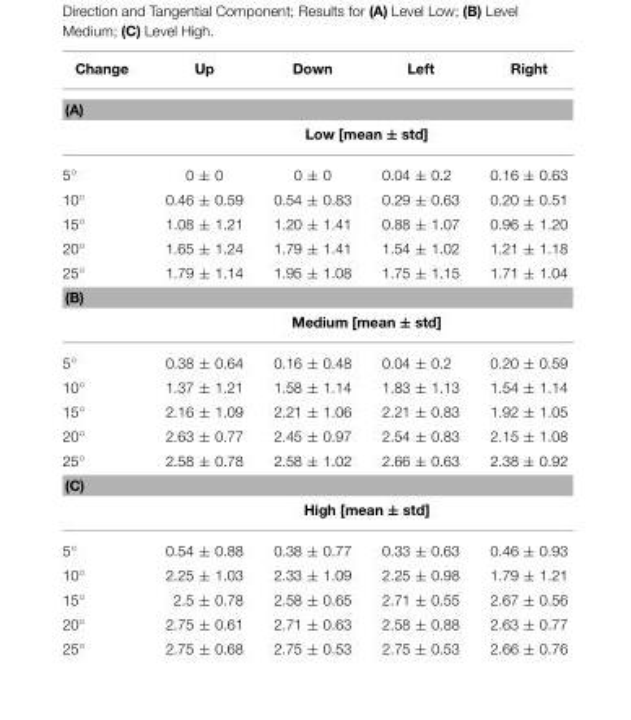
<table><thead><tr><td>Change</td><td>Up</td><td>Down</td><td>Left</td><td>Right</td></tr></thead><tbody><tr><td colspan="5">(A)</td></tr><tr><td></td><td colspan="4">Low [mean ± std]</td></tr><tr><td>5◦</td><td>0 ± 0</td><td>0 ± 0</td><td>0.04 ± 0.2</td><td>0.16 ± 0.63</td></tr><tr><td>10◦</td><td>0.46 ± 0.59</td><td>0.54 ± 0.83</td><td>0.29 ± 0.63</td><td>0.20 ± 0.51</td></tr><tr><td>15◦</td><td>1.08 ± 1.21</td><td>1.20 ± 1.41</td><td>0.88 ± 1.07</td><td>0.96 ± 1.20</td></tr><tr><td>20◦</td><td>1.65 ± 1.24</td><td>1.79 ± 1.41</td><td>1.54 ± 1.02</td><td>1.21 ± 1.18</td></tr><tr><td>25◦</td><td>1.79 ± 1.14</td><td>1.95 ± 1.08</td><td>1.75 ± 1.15</td><td>1.71 ± 1.04</td></tr><tr><td colspan="5">(B)</td></tr><tr><td></td><td colspan="4">Medium [mean ± std]</td></tr><tr><td>5◦</td><td>0.38 ± 0.64</td><td>0.16 ± 0.48</td><td>0.04 ± 0.2</td><td>0.20 ± 0.59</td></tr><tr><td>10◦</td><td>1.37 ± 1.21</td><td>1.58 ± 1.14</td><td>1.83 ± 1.13</td><td>1.54 ± 1.14</td></tr><tr><td>15◦</td><td>2.16 ± 1.09</td><td>2.21 ± 1.06</td><td>2.21 ± 0.83</td><td>1.92 ± 1.05</td></tr><tr><td>20◦</td><td>2.63 ± 0.77</td><td>2.45 ± 0.97</td><td>2.54 ± 0.83</td><td>2.15 ± 1.08</td></tr><tr><td>25◦</td><td>2.58 ± 0.78</td><td>2.58 ± 1.02</td><td>2.66 ± 0.63</td><td>2.38 ± 0.92</td></tr><tr><td colspan="5">(C)</td></tr><tr><td></td><td colspan="4">High [mean ± std]</td></tr><tr><td>5◦</td><td>0.54 ± 0.88</td><td>0.38 ± 0.77</td><td>0.33 ± 0.63</td><td>0.46 ± 0.93</td></tr><tr><td>10◦</td><td>2.25 ± 1.03</td><td>2.33 ± 1.09</td><td>2.25 ± 0.98</td><td>1.79 ± 1.21</td></tr><tr><td>15◦</td><td>2.5 ± 0.78</td><td>2.58 ± 0.65</td><td>2.71 ± 0.55</td><td>2.67 ± 0.56</td></tr><tr><td>20◦</td><td>2.75 ± 0.61</td><td>2.71 ± 0.63</td><td>2.58 ± 0.88</td><td>2.63 ± 0.77</td></tr><tr><td>25◦</td><td>2.75 ± 0.68</td><td>2.75 ± 0.53</td><td>2.75 ± 0.53</td><td>2.66 ± 0.76</td></tr></tbody></table>